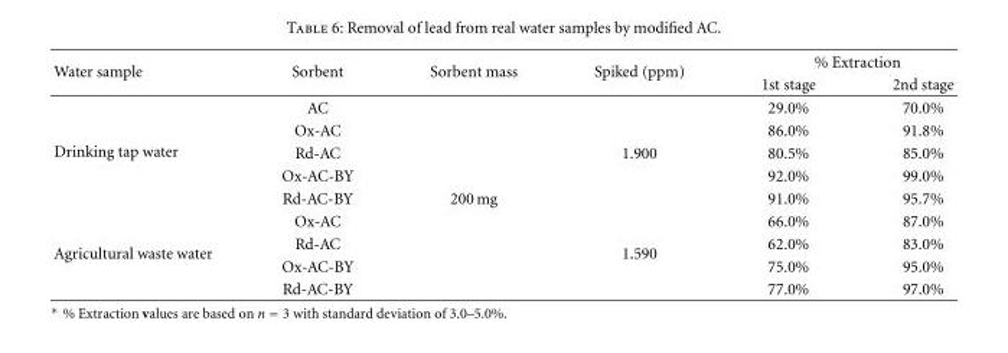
<table><thead><tr><td rowspan="2">Water sample</td><td rowspan="2">Sorbent</td><td rowspan="2">Sorbent mass</td><td rowspan="2">Spiked (ppm)</td><td colspan="2">% Extraction</td></tr><tr><td>1st stage</td><td>2nd stage</td></tr></thead><tbody><tr><td rowspan="5">Drinking tap water</td><td>AC</td><td></td><td></td><td>29.0%</td><td>70.0%</td></tr><tr><td>Ox-AC</td><td></td><td></td><td>86.0%</td><td>91.8%</td></tr><tr><td>Rd-AC</td><td></td><td>1.900</td><td>80.5%</td><td>85.0%</td></tr><tr><td>Ox-AC-BY</td><td></td><td></td><td>92.0%</td><td>99.0%</td></tr><tr><td>Rd-AC-BY</td><td>200 mg</td><td></td><td>91.0%</td><td>95.7%</td></tr><tr><td rowspan="4">Agricultural waste water</td><td>Ox-AC</td><td></td><td></td><td>66.0%</td><td>87.0%</td></tr><tr><td>Rd-AC</td><td></td><td rowspan="2">1.590</td><td>62.0%</td><td>83.0%</td></tr><tr><td>Ox-AC-BY</td><td></td><td>75.0%</td><td>95.0%</td></tr><tr><td>Rd-AC-BY</td><td></td><td></td><td>77.0%</td><td>97.0%</td></tr></tbody></table>